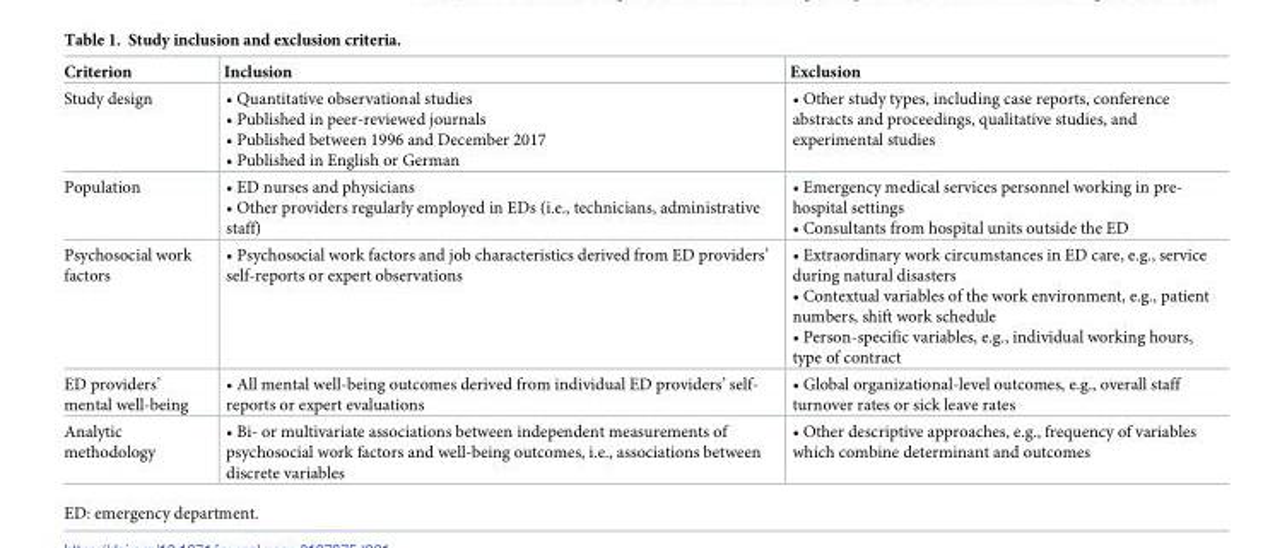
<table><thead><tr><td>Criterion</td><td>Inclusion</td><td>Exclusion</td></tr></thead><tbody><tr><td>Study design</td><td>• Quantitative observational studies • Published in peer-reviewed journals • Published between 1996 and December 2017 • Published in English or German</td><td>• Other study types, including case reports, conference abstracts and proceedings, qualitative studies, and experimental studies</td></tr><tr><td>Population</td><td>• ED nurses and physicians • Other providers regularly employed in EDs (i.e., technicians, administrative staff)</td><td>• Emergency medical services personnel working in pre- hospital settings • Consultants from hospital units outside the ED</td></tr><tr><td>Psychosocial work factors</td><td>• Psychosocial work factors and job characteristics derived from ED providers’ self-reports or expert observations</td><td>• Extraordinary work circumstances in ED care, e.g., service during natural disasters • Contextual variables of the work environment, e.g., patient numbers, shift work schedule • Person-specific variables, e.g., individual working hours, type of contract</td></tr><tr><td>ED providers’ mental well-being</td><td>• All mental well-being outcomes derived from individual ED providers’ self- reports or expert evaluations</td><td>• Global organizational-level outcomes, e.g., overall staff turnover rates or sick leave rates</td></tr><tr><td>Analytic methodology</td><td>• Bi- or multivariate associations between independent measurements of psychosocial work factors and well-being outcomes, i.e., associations between discrete variables</td><td>• Other descriptive approaches, e.g., frequency of variables which combine determinant and outcomes</td></tr></tbody></table>